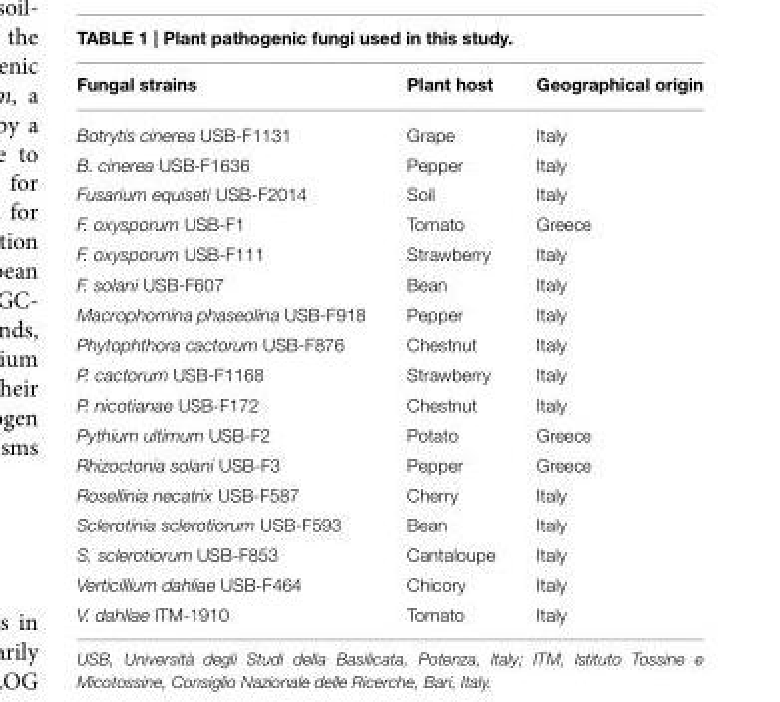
<table><thead><tr><td>Fungal strains</td><td>Plant host</td><td>Geographical origin</td></tr></thead><tbody><tr><td>Botrytis cinerea USB-F1131</td><td>Grape</td><td>Italy</td></tr><tr><td>B. cinerea USB-F1636</td><td>Pepper</td><td>Italy</td></tr><tr><td>Fusarium equiseti USB-F2014</td><td>Soil</td><td>Italy</td></tr><tr><td>F. oxysporum USB-F1</td><td>Tomato</td><td>Greece</td></tr><tr><td>F. oxysporum USB-F111</td><td>Strawberry</td><td>Italy</td></tr><tr><td>F. solani USB-F607</td><td>Bean</td><td>Italy</td></tr><tr><td>Macrophomina phaseolina USB-F918</td><td>Pepper</td><td>Italy</td></tr><tr><td>Phytophthora cactorum USB-F876</td><td>Chestnut</td><td>Italy</td></tr><tr><td>P. cactorum USB-F1168</td><td>Strawberry</td><td>Italy</td></tr><tr><td>P. nicotianae USB-F172</td><td>Chestnut</td><td>Italy</td></tr><tr><td>Pythium ultimum USB-F2</td><td>Potato</td><td>Greece</td></tr><tr><td>Rhizoctonia solani USB-F3</td><td>Pepper</td><td>Greece</td></tr><tr><td>Rosellinia necatrix USB-F587</td><td>Cherry</td><td>Italy</td></tr><tr><td>Sclerotinia sclerotiorum USB-F593</td><td>Bean</td><td>Italy</td></tr><tr><td>S. sclerotiorum USB-F853</td><td>Cantaloupe</td><td>Italy</td></tr><tr><td>Verticillium dahliae USB-F464</td><td>Chicory</td><td>Italy</td></tr><tr><td>V. dahliae ITM-1910</td><td>Tomato</td><td>Italy</td></tr></tbody></table>